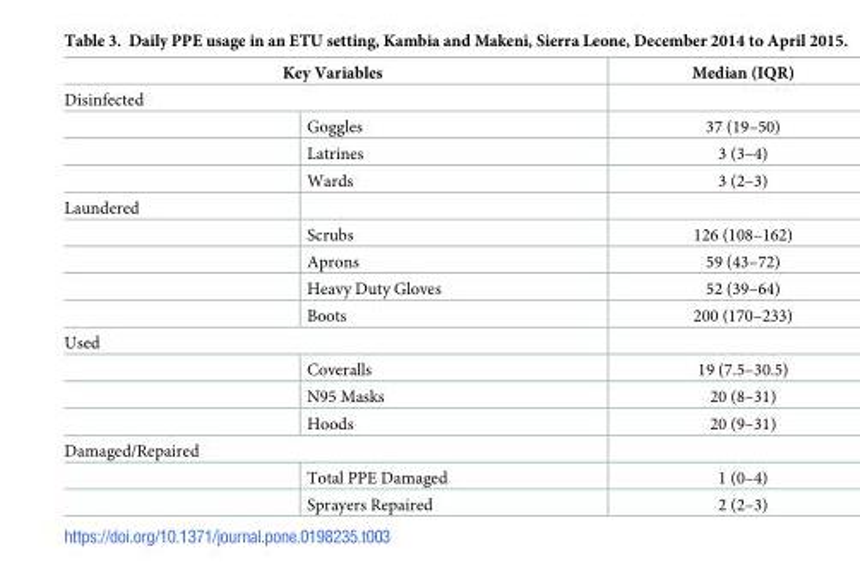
<table><thead><tr><td rowspan="2" colspan="2">Key Variables Disinfected</td><td rowspan="3">Median (IQR) 37 (19–50)</td></tr><tr></tr><tr><td></td><td>Goggles</td></tr></thead><tbody><tr><td></td><td>Latrines</td><td>3 (3–4)</td></tr><tr><td></td><td>Wards</td><td>3 (2–3)</td></tr><tr><td colspan="3">Laundered</td></tr><tr><td></td><td>Scrubs</td><td>126 (108–162)</td></tr><tr><td></td><td>Aprons</td><td>59 (43–72)</td></tr><tr><td></td><td>Heavy Duty Gloves</td><td>52 (39–64)</td></tr><tr><td></td><td>Boots</td><td>200 (170–233)</td></tr><tr><td colspan="3">Used</td></tr><tr><td></td><td>Coveralls</td><td>19 (7.5–30.5)</td></tr><tr><td></td><td>N95 Masks</td><td>20 (8–31)</td></tr><tr><td></td><td>Hoods</td><td>20 (9–31)</td></tr><tr><td colspan="3">Damaged/Repaired</td></tr><tr><td></td><td>Total PPE Damaged</td><td>1 (0–4)</td></tr><tr><td></td><td>Sprayers Repaired</td><td>2 (2–3)</td></tr></tbody></table>